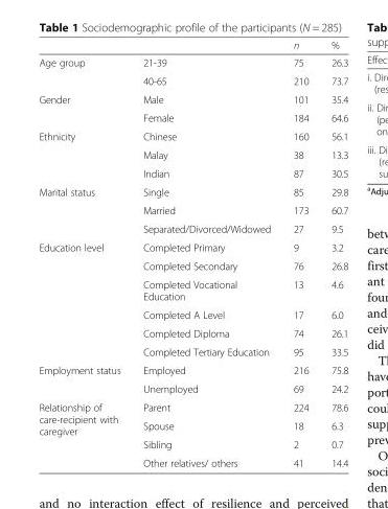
<table><thead><tr><td></td><td></td><td>n</td><td>%</td></tr></thead><tbody><tr><td rowspan="2">Age group</td><td>21-39</td><td>75</td><td>26.3</td></tr><tr><td>40-65</td><td>210</td><td>73.7</td></tr><tr><td rowspan="2">Gender</td><td>Male</td><td>101</td><td>35.4</td></tr><tr><td>Female</td><td>184</td><td>64.6</td></tr><tr><td rowspan="3">Ethnicity</td><td>Chinese</td><td>160</td><td>56.1</td></tr><tr><td>Malay</td><td>38</td><td>13.3</td></tr><tr><td>Indian</td><td>87</td><td>30.5</td></tr><tr><td rowspan="3">Marital status</td><td>Single</td><td>85</td><td>29.8</td></tr><tr><td>Married</td><td>173</td><td>60.7</td></tr><tr><td>Separated/Divorced/Widowed</td><td>27</td><td>9.5</td></tr><tr><td rowspan="6">Education level</td><td>Completed Primary</td><td>9</td><td>3.2</td></tr><tr><td>Completed Secondary</td><td>76</td><td>26.8</td></tr><tr><td>Completed Vocational Education</td><td>13</td><td>4.6</td></tr><tr><td>Completed A Level</td><td>17</td><td>6.0</td></tr><tr><td>Completed Diploma</td><td>74</td><td>26.1</td></tr><tr><td>Completed Tertiary Education</td><td>95</td><td>33.5</td></tr><tr><td rowspan="2">Employment status</td><td>Employed</td><td>216</td><td>75.8</td></tr><tr><td>Unemployed</td><td>69</td><td>24.2</td></tr><tr><td rowspan="4">Relationship of care-recipient with caregiver</td><td>Parent</td><td>224</td><td>78.6</td></tr><tr><td>Spouse</td><td>18</td><td>6.3</td></tr><tr><td>Sibling</td><td>2</td><td>0.7</td></tr><tr><td>Other relatives/ others</td><td>41</td><td>14.4</td></tr></tbody></table>